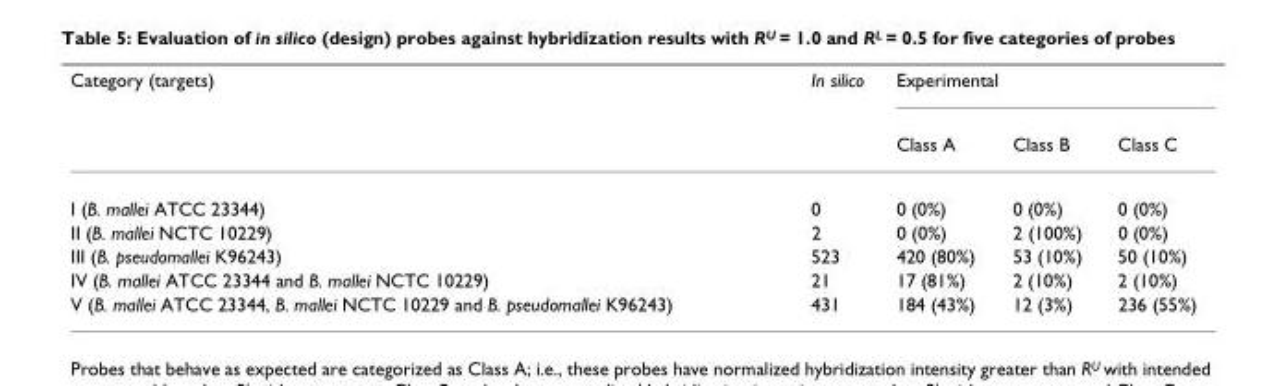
<table><thead><tr><td rowspan="2">Category (targets)</td><td rowspan="2">In silico</td><td colspan="3">Experimental</td></tr><tr><td>Class A</td><td>Class B</td><td>Class C</td></tr></thead><tbody><tr><td>I (B. mallei ATCC 23344)</td><td>0</td><td>0 (0%)</td><td>0 (0%)</td><td>0 (0%)</td></tr><tr><td>II (B. mallei NCTC 10229)</td><td>2</td><td>0 (0%)</td><td>2 (100%)</td><td>0 (0%)</td></tr><tr><td>III (B. pseudomallei K96243)</td><td>523</td><td>420 (80%)</td><td>53 (10%)</td><td>50 (10%)</td></tr><tr><td>IV (B. mallei ATCC 23344 and B. mallei NCTC 10229)</td><td>21</td><td>17 (81%)</td><td>2 (10%)</td><td>2 (10%)</td></tr><tr><td>V (B. mallei ATCC 23344, B. mallei NCTC 10229 and B. pseudomallei K96243)</td><td>431</td><td>184 (43%)</td><td>12 (3%)</td><td>236 (55%)</td></tr></tbody></table>